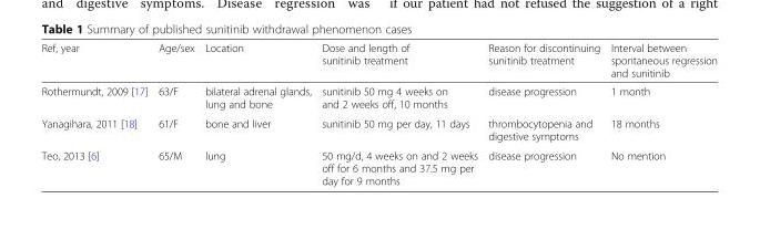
<table><thead><tr><td>Ref, year</td><td>Age/sex</td><td>Location</td><td>Dose and length of sunitinib treatment</td><td>Reason for discontinuing sunitinib treatment</td><td>Interval between spontaneous regression and sunitinib</td></tr></thead><tbody><tr><td>Rothermundt, 2009 [17]</td><td>63/F</td><td>bilateral adrenal glands, lung and bone</td><td>sunitinib 50 mg 4 weeks on and 2 weeks off, 10 months</td><td>disease progression</td><td>1 month</td></tr><tr><td>Yanagihara, 2011 [18]</td><td>61/F</td><td>bone and liver</td><td>sunitinib 50 mg per day, 11 days</td><td>thrombocytopenia and digestive symptoms</td><td>18 months</td></tr><tr><td>Teo, 2013 [6]</td><td>65/M</td><td>lung</td><td>50 mg/d, 4 weeks on and 2 weeks off for 6 months and 37.5 mg per day for 9 months</td><td>disease progression</td><td>No mention</td></tr></tbody></table>